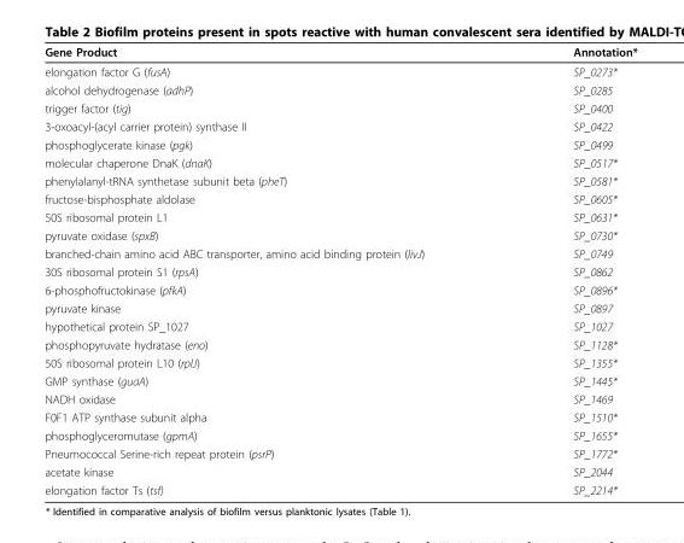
<table><thead><tr><td>Gene Product</td><td>Annotation*</td></tr></thead><tbody><tr><td>elongation factor G (fusA)</td><td>SP_0273*</td></tr><tr><td>alcohol dehydrogenase (adhP)</td><td>SP_0285</td></tr><tr><td>trigger factor (tig)</td><td>SP_0400</td></tr><tr><td>3-oxoacyl-(acyl carrier protein) synthase II</td><td>SP_0422</td></tr><tr><td>phosphoglycerate kinase (pgk)</td><td>SP_0499</td></tr><tr><td>molecular chaperone DnaK (dnaK)</td><td>SP_0517*</td></tr><tr><td>phenylalanyl-tRNA synthetase subunit beta (pheT)</td><td>SP_0581*</td></tr><tr><td>fructose-bisphosphate aldolase</td><td>SP_0605*</td></tr><tr><td>50S ribosomal protein L1</td><td>SP_0631*</td></tr><tr><td>pyruvate oxidase (spxB)</td><td>SP_0730*</td></tr><tr><td>branched-chain amino acid ABC transporter, amino acid binding protein (livJ)</td><td>SP_0749</td></tr><tr><td>30S ribosomal protein S1 (rpsA)</td><td>SP_0862</td></tr><tr><td>6-phosphofructokinase (pfkA)</td><td>SP_0896*</td></tr><tr><td>pyruvate kinase</td><td>SP_0897</td></tr><tr><td>hypothetical protein SP_1027</td><td>SP_1027</td></tr><tr><td>phosphopyruvate hydratase (eno)</td><td>SP_1128*</td></tr><tr><td>50S ribosomal protein L10 (rplJ)</td><td>SP_1355*</td></tr><tr><td>GMP synthase (guaA)</td><td>SP_1445*</td></tr><tr><td>NADH oxidase</td><td>SP_1469</td></tr><tr><td>F0F1 ATP synthase subunit alpha</td><td>SP_1510*</td></tr><tr><td>phosphoglyceromutase (gpmA)</td><td>SP_1655*</td></tr><tr><td>Pneumococcal Serine-rich repeat protein (psrP)</td><td>SP_1772*</td></tr><tr><td>acetate kinase</td><td>SP_2044</td></tr><tr><td>elongation factor Ts (tsf)</td><td>SP_2214*</td></tr></tbody></table>